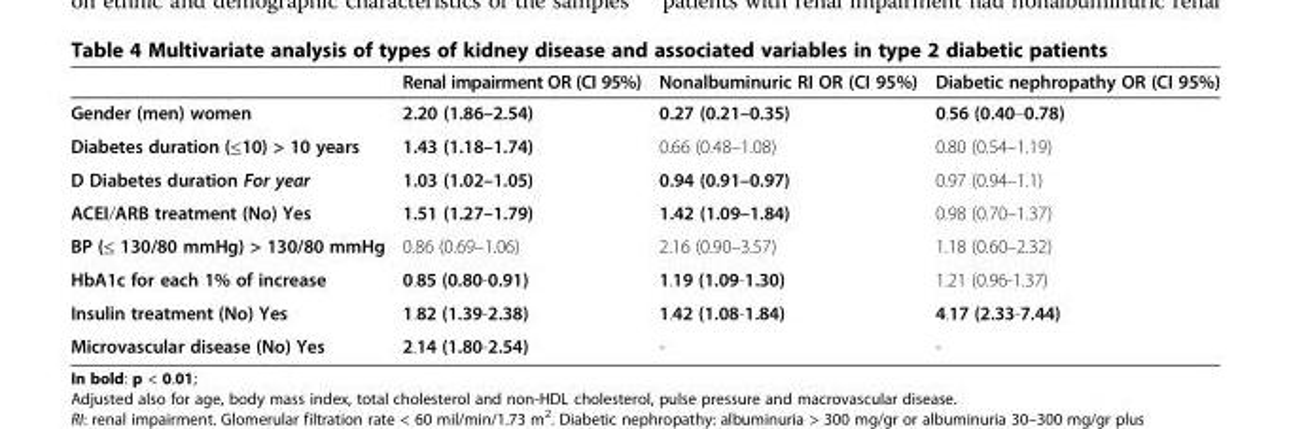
<table><thead><tr><td></td><td>Renal impairment OR (CI 95%)</td><td>Nonalbuminuric RI OR (CI 95%)</td><td>Diabetic nephropathy OR (CI 95%)</td></tr></thead><tbody><tr><td>Gender (men) women</td><td>2.20 (1.86–2.54)</td><td>0.27 (0.21–0.35)</td><td>0.56 (0.40–0.78)</td></tr><tr><td>Diabetes duration (≤10) &gt; 10 years</td><td>1.43 (1.18–1.74)</td><td>0.66 (0.48–1.08)</td><td>0.80 (0.54–1.19)</td></tr><tr><td>D Diabetes duration For year</td><td>1.03 (1.02–1.05)</td><td>0.94 (0.91–0.97)</td><td>0.97 (0.94–1.1)</td></tr><tr><td>ACEI/ARB treatment (No) Yes</td><td>1.51 (1.27–1.79)</td><td>1.42 (1.09–1.84)</td><td>0.98 (0.70–1.37)</td></tr><tr><td>BP (≤ 130/80 mmHg) &gt; 130/80 mmHg</td><td>0.86 (0.69–1.06)</td><td>2.16 (0.90–3.57)</td><td>1.18 (0.60–2.32)</td></tr><tr><td>HbA1c for each 1% of increase</td><td>0.85 (0.80-0.91)</td><td>1.19 (1.09-1.30)</td><td>1.21 (0.96-1.37)</td></tr><tr><td>Insulin treatment (No) Yes</td><td>1.82 (1.39-2.38)</td><td>1.42 (1.08-1.84)</td><td>4.17 (2.33-7.44)</td></tr><tr><td>Microvascular disease (No) Yes</td><td>2.14 (1.80-2.54)</td><td>-</td><td>-</td></tr></tbody></table>